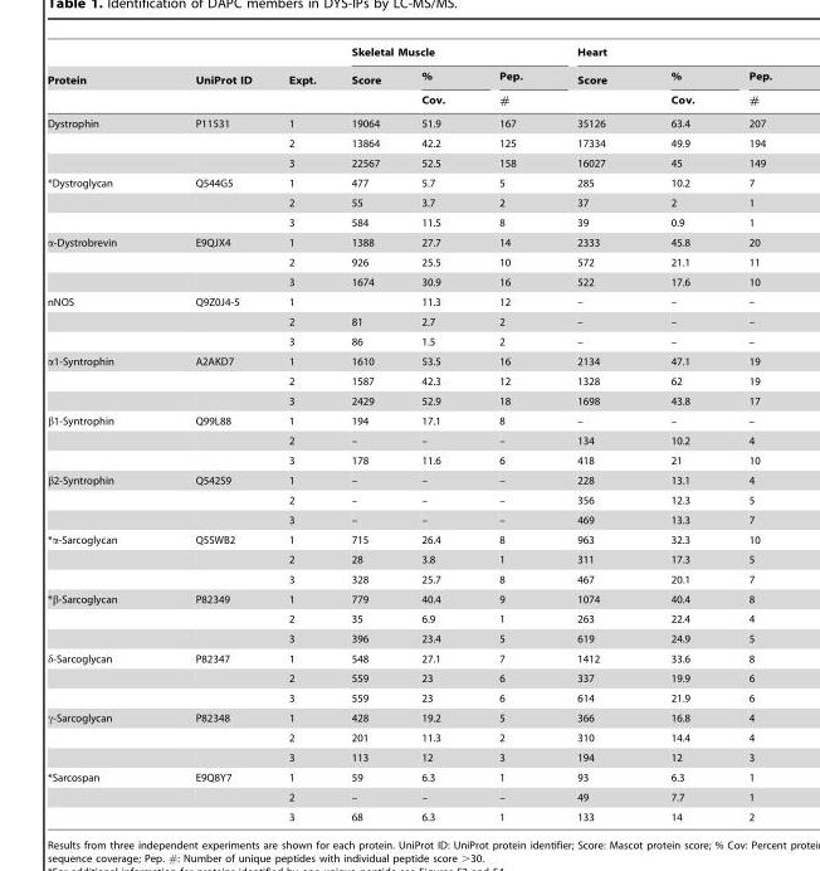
<table><thead><tr><td rowspan="3">Protein</td><td rowspan="3">UniProt ID</td><td rowspan="3">Expt.</td><td colspan="3">Skeletal Muscle</td><td colspan="3">Heart</td></tr><tr><td rowspan="2">Score</td><td rowspan="2">% Cov.</td><td rowspan="2">Pep. #</td><td rowspan="2">Score</td><td rowspan="2">% Cov.</td><td rowspan="2">Pep. #</td></tr><tr></tr></thead><tbody><tr><td rowspan="3">Dystrophin</td><td>P11531</td><td>1</td><td>19064</td><td>51.9</td><td>167</td><td>35126</td><td>63.4</td><td>207</td></tr><tr><td></td><td>2</td><td>13864</td><td>42.2</td><td>125</td><td>17334</td><td>49.9</td><td>194</td></tr><tr><td></td><td>3</td><td>22567</td><td>52.5</td><td>158</td><td>16027</td><td>45</td><td>149</td></tr><tr><td rowspan="3">*Dystroglycan</td><td>Q544G5</td><td>1</td><td>477</td><td>5.7</td><td>5</td><td>285</td><td>10.2</td><td>7</td></tr><tr><td></td><td>2</td><td>55</td><td>3.7</td><td>2</td><td>37</td><td>2</td><td>1</td></tr><tr><td></td><td>3</td><td>584</td><td>11.5</td><td>8</td><td>39</td><td>0.9</td><td>1</td></tr><tr><td rowspan="3">α-Dystrobrevin</td><td>E9QJX4</td><td>1</td><td>1388</td><td>27.7</td><td>14</td><td>2333</td><td>45.8</td><td>20</td></tr><tr><td></td><td>2</td><td>926</td><td>25.5</td><td>10</td><td>572</td><td>21.1</td><td>11</td></tr><tr><td></td><td>3</td><td>1674</td><td>30.9</td><td>16</td><td>522</td><td>17.6</td><td>10</td></tr><tr><td rowspan="3">nNOS</td><td>Q9Z0J4-5</td><td>1</td><td></td><td>11.3</td><td>12</td><td>–</td><td>–</td><td>–</td></tr><tr><td></td><td>2</td><td>81</td><td>2.7</td><td>2</td><td>–</td><td>–</td><td>–</td></tr><tr><td></td><td>3</td><td>86</td><td>1.5</td><td>2</td><td>–</td><td>–</td><td>–</td></tr><tr><td rowspan="3">α1-Syntrophin</td><td>A2AKD7</td><td>1</td><td>1610</td><td>53.5</td><td>16</td><td>2134</td><td>47.1</td><td>19</td></tr><tr><td></td><td>2</td><td>1587</td><td>42.3</td><td>12</td><td>1328</td><td>62</td><td>19</td></tr><tr><td></td><td>3</td><td>2429</td><td>52.9</td><td>18</td><td>1698</td><td>43.8</td><td>17</td></tr><tr><td rowspan="3">β1-Syntrophin</td><td>Q99L88</td><td>1</td><td>194</td><td>17.1</td><td>8</td><td>–</td><td>–</td><td>–</td></tr><tr><td></td><td>2</td><td>–</td><td>–</td><td>–</td><td>134</td><td>10.2</td><td>4</td></tr><tr><td></td><td>3</td><td>178</td><td>11.6</td><td>6</td><td>418</td><td>21</td><td>10</td></tr><tr><td rowspan="3">β2-Syntrophin</td><td>Q542S9</td><td>1</td><td>–</td><td>–</td><td>–</td><td>228</td><td>13.1</td><td>4</td></tr><tr><td></td><td>2</td><td>–</td><td>–</td><td>–</td><td>356</td><td>12.3</td><td>5</td></tr><tr><td></td><td>3</td><td>–</td><td>–</td><td>–</td><td>469</td><td>13.3</td><td>7</td></tr><tr><td rowspan="3">*α-Sarcoglycan</td><td>Q5SWB2</td><td>1</td><td>715</td><td>26.4</td><td>8</td><td>963</td><td>32.3</td><td>10</td></tr><tr><td></td><td>2</td><td>28</td><td>3.8</td><td>1</td><td>311</td><td>17.3</td><td>5</td></tr><tr><td></td><td>3</td><td>328</td><td>25.7</td><td>8</td><td>467</td><td>20.1</td><td>7</td></tr><tr><td rowspan="3">*β-Sarcoglycan</td><td>P82349</td><td>1</td><td>779</td><td>40.4</td><td>9</td><td>1074</td><td>40.4</td><td>8</td></tr><tr><td></td><td>2</td><td>35</td><td>6.9</td><td>1</td><td>263</td><td>22.4</td><td>4</td></tr><tr><td></td><td>3</td><td>396</td><td>23.4</td><td>5</td><td>619</td><td>24.9</td><td>5</td></tr><tr><td rowspan="3">δ-Sarcoglycan</td><td>P82347</td><td>1</td><td>548</td><td>27.1</td><td>7</td><td>1412</td><td>33.6</td><td>8</td></tr><tr><td></td><td>2</td><td>559</td><td>23</td><td>6</td><td>337</td><td>19.9</td><td>6</td></tr><tr><td></td><td>3</td><td>559</td><td>23</td><td>6</td><td>614</td><td>21.9</td><td>6</td></tr><tr><td rowspan="3">γ-Sarcoglycan</td><td>P82348</td><td>1</td><td>428</td><td>19.2</td><td>5</td><td>366</td><td>16.8</td><td>4</td></tr><tr><td></td><td>2</td><td>201</td><td>11.3</td><td>2</td><td>310</td><td>14.4</td><td>4</td></tr><tr><td></td><td>3</td><td>113</td><td>12</td><td>3</td><td>194</td><td>12</td><td>3</td></tr><tr><td rowspan="3">*Sarcospan</td><td>E9Q8Y7</td><td>1</td><td>59</td><td>6.3</td><td>1</td><td>93</td><td>6.3</td><td>1</td></tr><tr><td></td><td>2</td><td>–</td><td>–</td><td>–</td><td>49</td><td>7.7</td><td>1</td></tr><tr><td></td><td>3</td><td>68</td><td>6.3</td><td>1</td><td>133</td><td>14</td><td>2</td></tr></tbody></table>